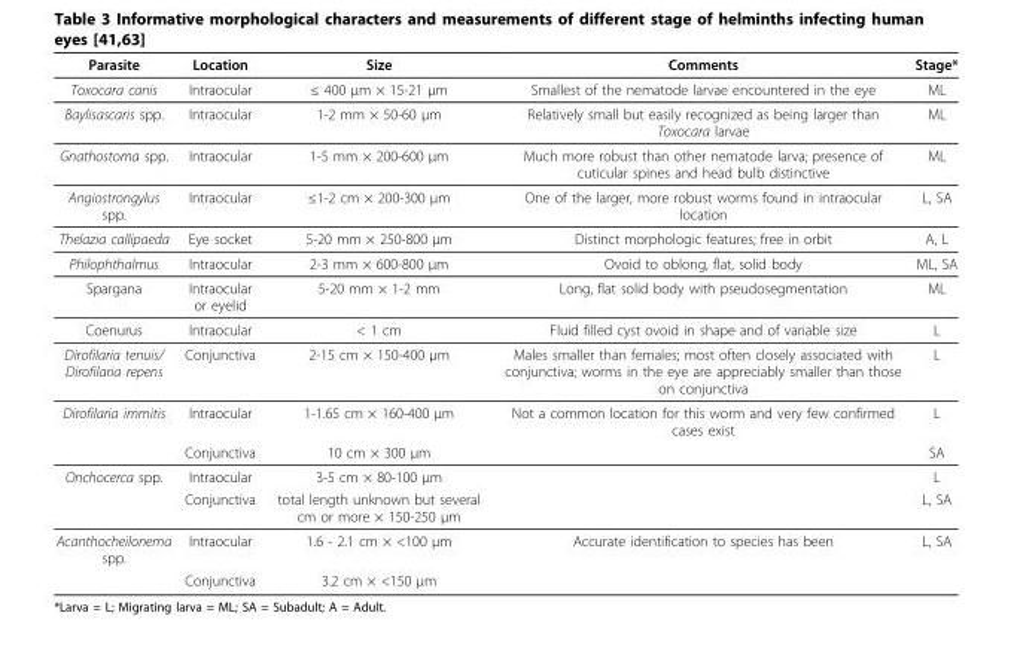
<table><thead><tr><td>Parasite</td><td>Location</td><td>Size</td><td>Comments</td><td>Stage*</td></tr></thead><tbody><tr><td>Toxocara canis</td><td>Intraocular</td><td>≤ 400 μm × 15-21 μm</td><td>Smallest of the nematode larvae encountered in the eye</td><td>ML</td></tr><tr><td>Baylisascaris spp.</td><td>Intraocular</td><td>1-2 mm × 50-60 μm</td><td>Relatively small but easily recognized as being larger than Toxocara larvae</td><td>ML</td></tr><tr><td>Gnathostoma spp.</td><td>Intraocular</td><td>1-5 mm × 200-600 μm</td><td>Much more robust than other nematode larva; presence of cuticular spines and head bulb distinctive</td><td>ML</td></tr><tr><td>Angiostrongylus spp.</td><td>Intraocular</td><td>≤1-2 cm × 200-300 μm</td><td>One of the larger, more robust worms found in intraocular location</td><td>L, SA</td></tr><tr><td>Thelazia callipaeda</td><td>Eye socket</td><td>5-20 mm × 250-800 μm</td><td>Distinct morphologic features; free in orbit</td><td>A, L</td></tr><tr><td>Philophthalmus</td><td>Intraocular</td><td>2-3 mm × 600-800 μm</td><td>Ovoid to oblong, flat, solid body</td><td>ML, SA</td></tr><tr><td>Spargana</td><td>Intraocular or eyelid</td><td>5-20 mm × 1-2 mm</td><td>Long, flat solid body with pseudosegmentation</td><td>ML</td></tr><tr><td>Coenurus</td><td>Intraocular</td><td>&lt; 1 cm</td><td>Fluid filled cyst ovoid in shape and of variable size</td><td>L</td></tr><tr><td>Dirofilaria tenuis/ Dirofilaria repens</td><td>Conjunctiva</td><td>2-15 cm × 150-400 μm</td><td>Males smaller than females; most often closely associated with conjunctiva; worms in the eye are appreciably smaller than those on conjunctiva</td><td>L</td></tr><tr><td rowspan="2">Dirofilaria immitis</td><td>Intraocular</td><td>1-1.65 cm × 160-400 μm</td><td>Not a common location for this worm and very few confirmed cases exist</td><td>L</td></tr><tr><td>Conjunctiva</td><td>10 cm × 300 μm</td><td></td><td>SA</td></tr><tr><td rowspan="2">Onchocerca spp.</td><td>Intraocular</td><td>3-5 cm × 80-100 μm</td><td></td><td>L</td></tr><tr><td>Conjunctiva</td><td>total length unknown but several cm or more × 150-250 μm</td><td></td><td>L, SA</td></tr><tr><td rowspan="2">Acanthocheilonema spp.</td><td>Intraocular</td><td>1.6 - 2.1 cm × &lt;100 μm</td><td>Accurate identification to species has been</td><td>L, SA</td></tr><tr><td>Conjunctiva</td><td>3.2 cm × &lt;150 μm</td><td></td><td></td></tr></tbody></table>